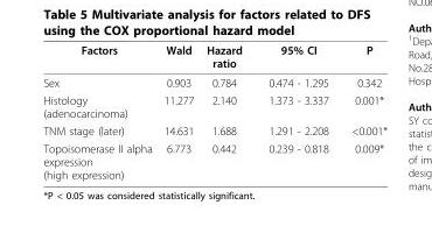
<table><thead><tr><td>Factors</td><td>Wald</td><td>Hazard ratio</td><td>95% CI</td><td>P</td></tr></thead><tbody><tr><td>Sex</td><td>0.903</td><td>0.784</td><td>0.474 - 1.295</td><td>0.342</td></tr><tr><td>Histology (adenocarcinoma)</td><td>11.277</td><td>2.140</td><td>1.373 - 3.337</td><td>0.001*</td></tr><tr><td>TNM stage (later)</td><td>14.631</td><td>1.688</td><td>1.291 - 2.208</td><td>&lt;0.001*</td></tr><tr><td>Topoisomerase II alpha expression (high expression)</td><td>6.773</td><td>0.442</td><td>0.239 - 0.818</td><td>0.009*</td></tr></tbody></table>